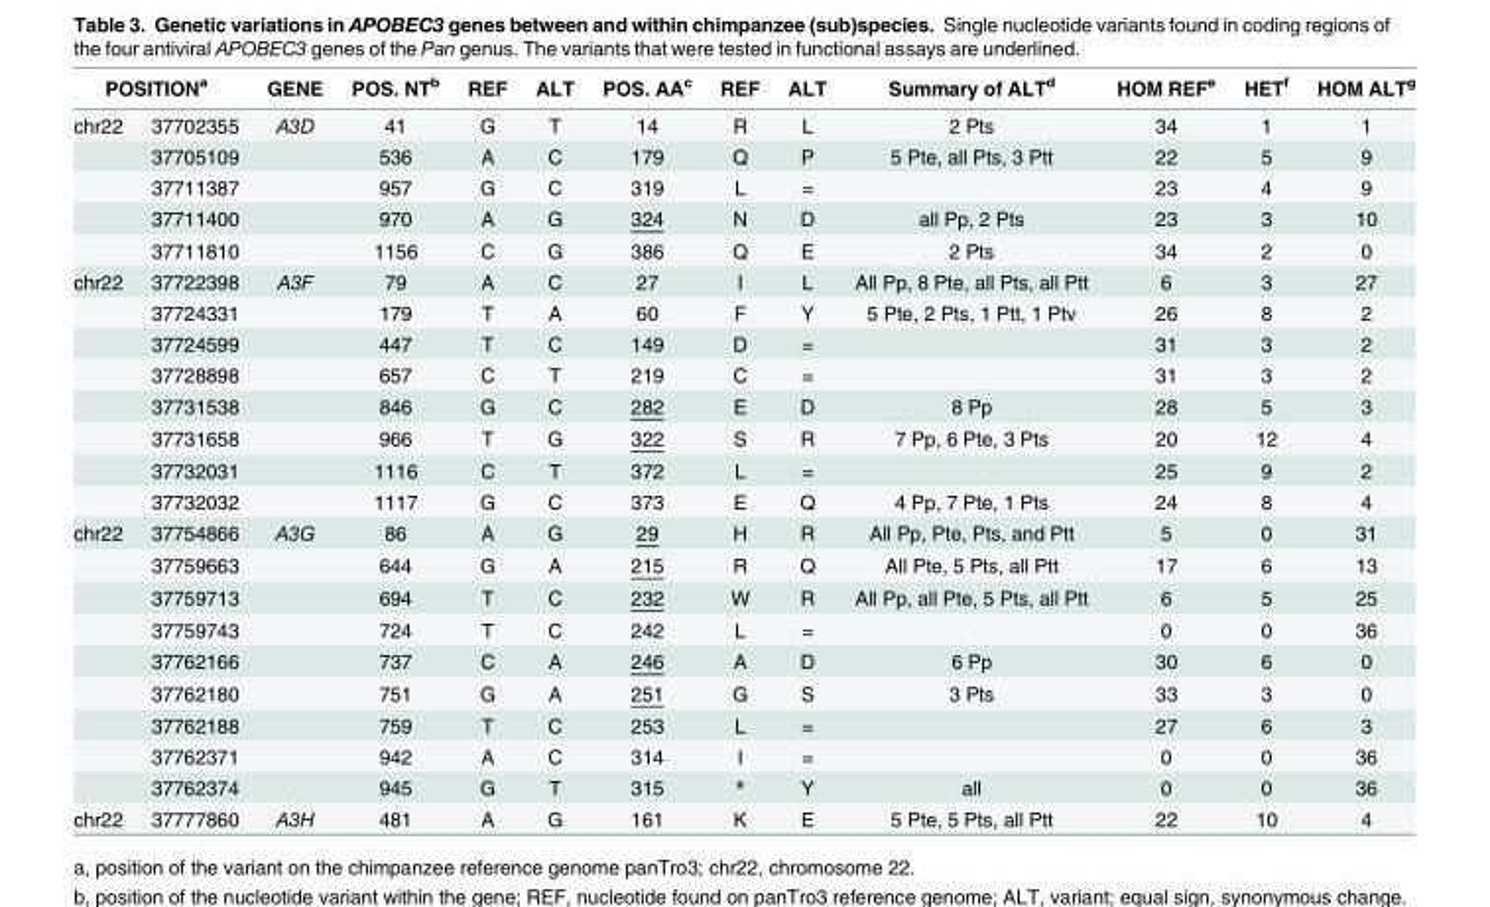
<table><thead><tr><td colspan="2">POSITION<sup>a</sup></td><td rowspan="2">GENE A3D</td><td rowspan="2">POS. NT<sup>b</sup> 41</td><td rowspan="2">REF G</td><td rowspan="2">ALT T</td><td rowspan="2">POS. AA<sup>c</sup> 14</td><td rowspan="2">REF R</td><td rowspan="2">ALT L</td><td rowspan="2">Summary of ALT<sup>d</sup> 2 Pts</td><td rowspan="2">HOM REF<sup>e</sup> 34</td><td rowspan="2">HET<sup>f</sup> 1</td><td rowspan="2">HOM ALT<sup>g</sup> 1</td></tr><tr><td>chr22</td><td>37702355</td></tr></thead><tbody><tr><td></td><td>37705109</td><td></td><td>536</td><td>A</td><td>C</td><td>179</td><td>Q</td><td>P</td><td>5 Pte, all Pts, 3 Ptt</td><td>22</td><td>5</td><td>9</td></tr><tr><td></td><td>37711387</td><td></td><td>957</td><td>G</td><td>C</td><td>319</td><td>L</td><td>=</td><td></td><td>23</td><td>4</td><td>9</td></tr><tr><td></td><td>37711400</td><td></td><td>970</td><td>A</td><td>G</td><td>324</td><td>N</td><td>D</td><td>all Pp, 2 Pts</td><td>23</td><td>3</td><td>10</td></tr><tr><td></td><td>37711810</td><td></td><td>1156</td><td>C</td><td>G</td><td>386</td><td>Q</td><td>E</td><td>2 Pts</td><td>34</td><td>2</td><td>0</td></tr><tr><td rowspan="8">chr22</td><td>37722398</td><td>A3F</td><td>79</td><td>A</td><td>C</td><td>27</td><td>I</td><td>L</td><td>All Pp, 8 Pte, all Pts, all Ptt</td><td>6</td><td>3</td><td>27</td></tr><tr><td>37724331</td><td></td><td>179</td><td>T</td><td>A</td><td>60</td><td>F</td><td>Y</td><td>5 Pte, 2 Pts, 1 Ptt, 1 Ptv</td><td>26</td><td>8</td><td>2</td></tr><tr><td>37724599</td><td></td><td>447</td><td>T</td><td>C</td><td>149</td><td>D</td><td>=</td><td></td><td>31</td><td>3</td><td>2</td></tr><tr><td>37728898</td><td></td><td>657</td><td>C</td><td>T</td><td>219</td><td>C</td><td>=</td><td></td><td>31</td><td>3</td><td>2</td></tr><tr><td>37731538</td><td></td><td>846</td><td>G</td><td>C</td><td>282</td><td>E</td><td>D</td><td>8 Pp</td><td>28</td><td>5</td><td>3</td></tr><tr><td>37731658</td><td></td><td>966</td><td>T</td><td>G</td><td>322</td><td>S</td><td>R</td><td>7 Pp, 6 Pte, 3 Pts</td><td>20</td><td>12</td><td>4</td></tr><tr><td>37732031</td><td></td><td>1116</td><td>C</td><td>T</td><td>372</td><td>L</td><td>=</td><td></td><td>25</td><td>9</td><td>2</td></tr><tr><td>37732032</td><td></td><td>1117</td><td>G</td><td>C</td><td>373</td><td>E</td><td>Q</td><td>4 Pp, 7 Pte, 1 Pts</td><td>24</td><td>8</td><td>4</td></tr><tr><td rowspan="9">chr22</td><td>37754866</td><td>A3G</td><td>86</td><td>A</td><td>G</td><td>29</td><td>H</td><td>R</td><td>All Pp, Pte, Pts, and Ptt</td><td>5</td><td>0</td><td>31</td></tr><tr><td>37759663</td><td></td><td>644</td><td>G</td><td>A</td><td>215</td><td>R</td><td>Q</td><td>All Pte, 5 Pts, all Ptt</td><td>17</td><td>6</td><td>13</td></tr><tr><td>37759713</td><td></td><td>694</td><td>T</td><td>C</td><td>232</td><td>W</td><td>R</td><td>All Pp, all Pte, 5 Pts, all Ptt</td><td>6</td><td>5</td><td>25</td></tr><tr><td>37759743</td><td></td><td>724</td><td>T</td><td>C</td><td>242</td><td>L</td><td>=</td><td></td><td>0</td><td>0</td><td>36</td></tr><tr><td>37762166</td><td></td><td>737</td><td>C</td><td>A</td><td>246</td><td>A</td><td>D</td><td>6 Pp</td><td>30</td><td>6</td><td>0</td></tr><tr><td>37762180</td><td></td><td>751</td><td>G</td><td>A</td><td>251</td><td>G</td><td>S</td><td>3 Pts</td><td>33</td><td>3</td><td>0</td></tr><tr><td>37762188</td><td></td><td>759</td><td>T</td><td>C</td><td>253</td><td>L</td><td>=</td><td></td><td>27</td><td>6</td><td>3</td></tr><tr><td>37762371</td><td></td><td>942</td><td>A</td><td>C</td><td>314</td><td>I</td><td>=</td><td></td><td>0</td><td>0</td><td>36</td></tr><tr><td>37762374</td><td></td><td>945</td><td>G</td><td>T</td><td>315</td><td>*</td><td>Y</td><td>all</td><td>0</td><td>0</td><td>36</td></tr><tr><td>chr22</td><td>37777860</td><td>A3H</td><td>481</td><td>A</td><td>G</td><td>161</td><td>K</td><td>E</td><td>5 Pte, 5 Pts, all Ptt</td><td>22</td><td>10</td><td>4</td></tr></tbody></table>